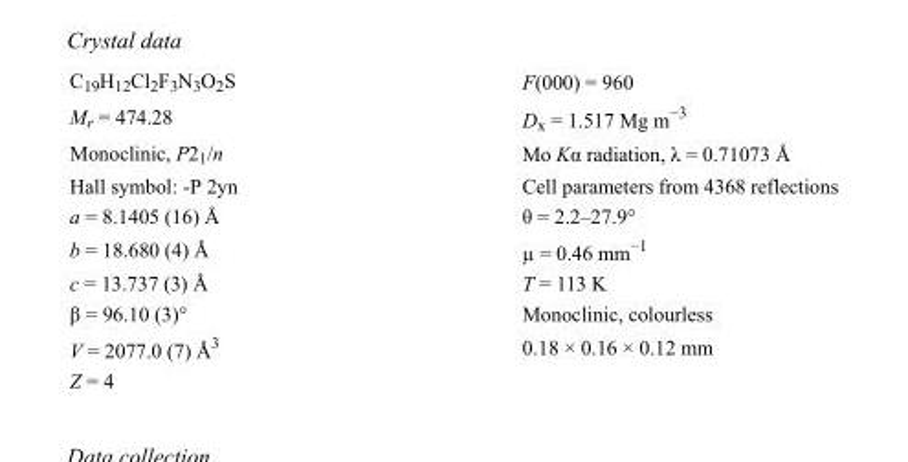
<table><tbody><tr><td>C<sub>19</sub>H<sub>12</sub>Cl<sub>2</sub>F<sub>3</sub>N<sub>3</sub>O<sub>2</sub>S</td><td>F(000) = 960</td></tr><tr><td>M<sub>r</sub> = 474.28</td><td>D<sub>x</sub> = 1.517 Mg m<sup>−3</sup></td></tr><tr><td>Monoclinic, P2<sub>1</sub>/n</td><td>Mo Kα radiation, λ = 0.71073 Å</td></tr><tr><td>Hall symbol: -P 2yn</td><td>Cell parameters from 4368 reflections</td></tr><tr><td>a = 8.1405 (16) Å</td><td>θ = 2.2–27.9°</td></tr><tr><td>b = 18.680 (4) Å</td><td>µ = 0.46 mm<sup>−1</sup></td></tr><tr><td>c = 13.737 (3) Å</td><td>T = 113 K</td></tr><tr><td>β = 96.10 (3)°</td><td>Monoclinic, colourless</td></tr><tr><td>V = 2077.0 (7) Å<sup>3</sup></td><td>0.18 × 0.16 × 0.12 mm</td></tr><tr><td>Z = 4</td><td></td></tr></tbody></table>